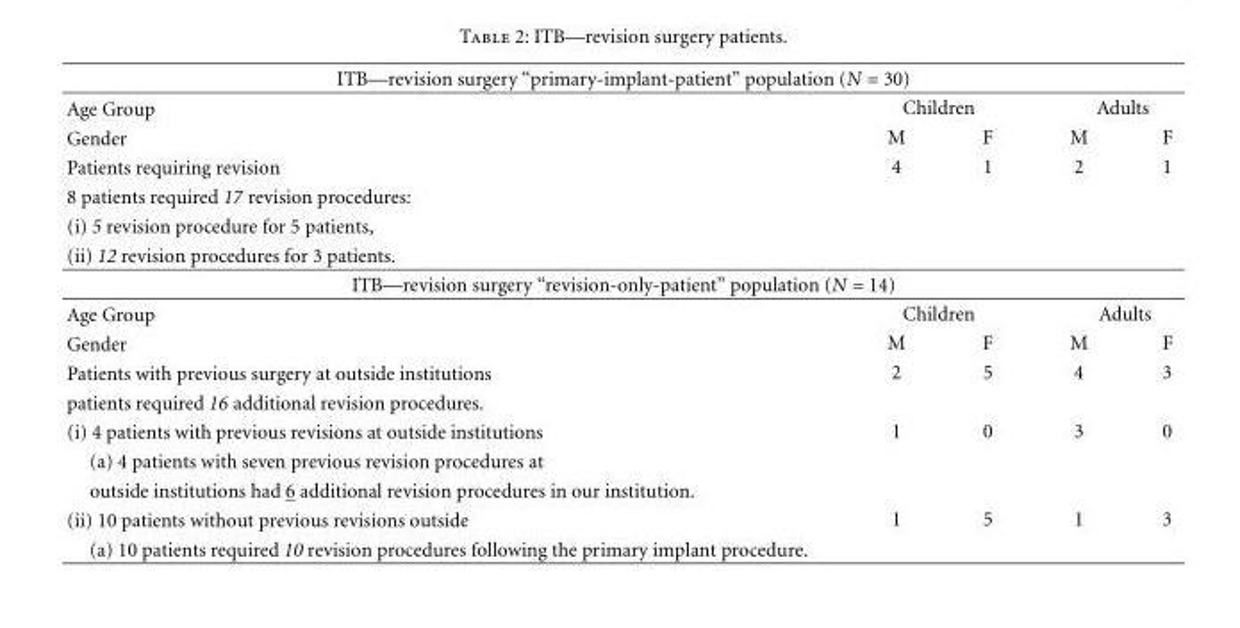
<table><tbody><tr><td colspan="5">ITB—revision surgery “primary-implant-patient” population (N = 30)</td></tr><tr><td>Age Group</td><td colspan="2">Children</td><td colspan="2">Adults</td></tr><tr><td>Gender</td><td>M</td><td>F</td><td>M</td><td>F</td></tr><tr><td>Patients requiring revision</td><td>4</td><td>1</td><td>2</td><td>1</td></tr><tr><td colspan="5">8 patients required 17 revision procedures:</td></tr><tr><td colspan="5">(i) 5 revision procedure for 5 patients,</td></tr><tr><td colspan="5">(ii) 12 revision procedures for 3 patients.</td></tr><tr><td colspan="5">ITB—revision surgery “revision-only-patient” population (N = 14)</td></tr><tr><td>Age Group</td><td colspan="2">Children</td><td colspan="2">Adults</td></tr><tr><td>Gender</td><td>M</td><td>F</td><td>M</td><td>F</td></tr><tr><td>Patients with previous surgery at outside institutions</td><td>2</td><td>5</td><td>4</td><td>3</td></tr><tr><td colspan="5">patients required 16 additional revision procedures.</td></tr><tr><td>(i) 4 patients with previous revisions at outside institutions</td><td>1</td><td>0</td><td>3</td><td>0</td></tr><tr><td colspan="5">(a) 4 patients with seven previous revision procedures at</td></tr><tr><td colspan="5">outside institutions had 6 additional revision procedures in our institution.</td></tr><tr><td>(ii) 10 patients without previous revisions outside</td><td>1</td><td>5</td><td>1</td><td>3</td></tr><tr><td>(a) 10 patients required 10 revision procedures following the primary implant procedure.</td><td></td><td></td><td></td><td></td></tr></tbody></table>